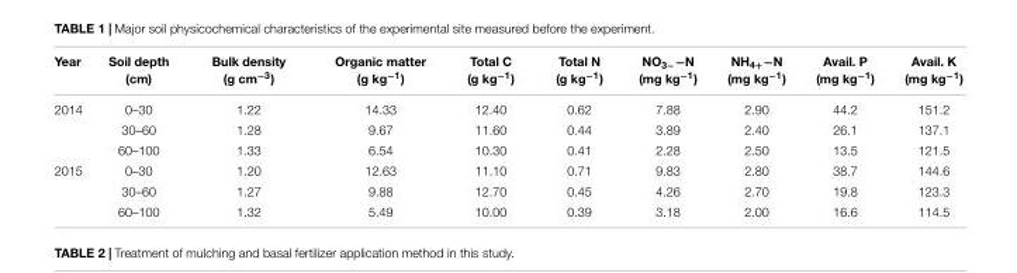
<table><thead><tr><td>Year</td><td>Soil depth (cm)</td><td>Bulk density (g cm<sup>−3</sup>)</td><td>Organic matter (g kg<sup>−1</sup>)</td><td>Total C (g kg<sup>−1</sup>)</td><td>Total N (g kg<sup>−1</sup>)</td><td>NO<sub>3−</sub>−N (mg kg<sup>−1</sup>)</td><td>NH<sub>4+</sub>−N (mg kg<sup>−1</sup>)</td><td>Avail. P (mg kg<sup>−1</sup>)</td><td>Avail. K (mg kg<sup>−1</sup>)</td></tr></thead><tbody><tr><td rowspan="3">2014</td><td>0–30</td><td>1.22</td><td>14.33</td><td>12.40</td><td>0.62</td><td>7.88</td><td>2.90</td><td>44.2</td><td>151.2</td></tr><tr><td>30–60</td><td>1.28</td><td>9.67</td><td>11.60</td><td>0.44</td><td>3.89</td><td>2.40</td><td>26.1</td><td>137.1</td></tr><tr><td>60–100</td><td>1.33</td><td>6.54</td><td>10.30</td><td>0.41</td><td>2.28</td><td>2.50</td><td>13.5</td><td>121.5</td></tr><tr><td rowspan="3">2015</td><td>0–30</td><td>1.20</td><td>12.63</td><td>11.10</td><td>0.71</td><td>9.83</td><td>2.80</td><td>38.7</td><td>144.6</td></tr><tr><td>30–60</td><td>1.27</td><td>9.88</td><td>12.70</td><td>0.45</td><td>4.26</td><td>2.70</td><td>19.8</td><td>123.3</td></tr><tr><td>60–100</td><td>1.32</td><td>5.49</td><td>10.00</td><td>0.39</td><td>3.18</td><td>2.00</td><td>16.6</td><td>114.5</td></tr></tbody></table>